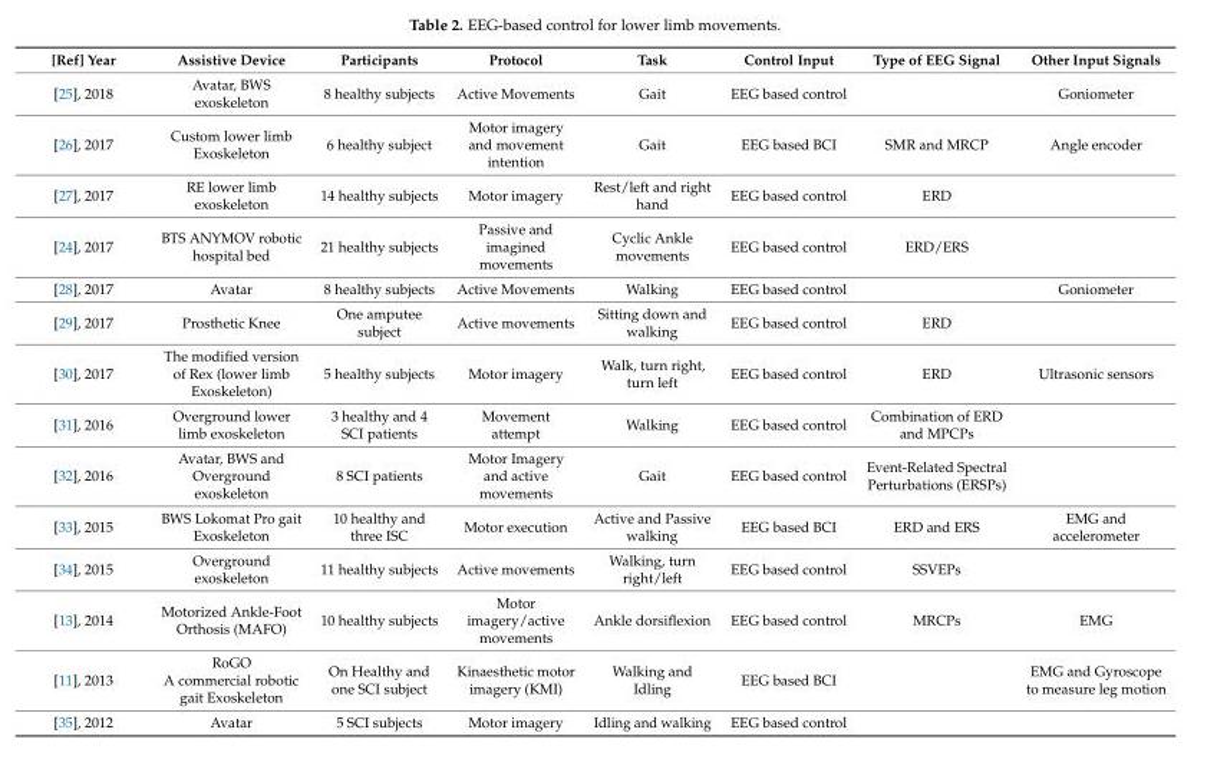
<table><thead><tr><td>[Ref] Year</td><td>Assistive Device</td><td>Participants</td><td>Protocol</td><td>Task</td><td>Control Input</td><td>Type of EEG Signal</td><td>Other Input Signals</td></tr></thead><tbody><tr><td>[25], 2018</td><td>Avatar, BWS exoskeleton</td><td>8 healthy subjects</td><td>Active Movements</td><td>Gait</td><td>EEG based control</td><td></td><td>Goniometer</td></tr><tr><td>[26], 2017</td><td>Custom lower limb Exoskeleton</td><td>6 healthy subject</td><td>Motor imagery and movement intention</td><td>Gait</td><td>EEG based BCI</td><td>SMR and MRCP</td><td>Angle encoder</td></tr><tr><td>[27], 2017</td><td>RE lower limb exoskeleton</td><td>14 healthy subjects</td><td>Motor imagery</td><td>Rest/left and right hand</td><td>EEG based control</td><td>ERD</td><td></td></tr><tr><td>[24], 2017</td><td>BTS ANYMOV robotic hospital bed</td><td>21 healthy subjects</td><td>Passive and imagined movements</td><td>Cyclic Ankle movements</td><td>EEG based control</td><td>ERD/ERS</td><td></td></tr><tr><td>[28], 2017</td><td>Avatar</td><td>8 healthy subjects</td><td>Active Movements</td><td>Walking</td><td>EEG based control</td><td></td><td>Goniometer</td></tr><tr><td>[29], 2017</td><td>Prosthetic Knee</td><td>One amputee subject</td><td>Active movements</td><td>Sitting down and walking</td><td>EEG based control</td><td>ERD</td><td></td></tr><tr><td>[30], 2017</td><td>The modified version of Rex (lower limb Exoskeleton)</td><td>5 healthy subjects</td><td>Motor imagery</td><td>Walk, turn right, turn left</td><td>EEG based control</td><td>ERD</td><td>Ultrasonic sensors</td></tr><tr><td>[31], 2016</td><td>Overground lower limb exoskeleton</td><td>3 healthy and 4 SCI patients</td><td>Movement attempt</td><td>Walking</td><td>EEG based control</td><td>Combination of ERD and MPCPs</td><td></td></tr><tr><td>[32], 2016</td><td>Avatar, BWS and Overground exoskeleton</td><td>8 SCI patients</td><td>Motor Imagery and active movements</td><td>Gait</td><td>EEG based control</td><td>Event-Related Spectral Perturbations (ERSPs)</td><td></td></tr><tr><td>[33], 2015</td><td>BWS Lokomat Pro gait Exoskeleton</td><td>10 healthy and three ISC</td><td>Motor execution</td><td>Active and Passive walking</td><td>EEG based BCI</td><td>ERD and ERS</td><td>EMG and accelerometer</td></tr><tr><td>[34], 2015</td><td>Overground exoskeleton</td><td>11 healthy subjects</td><td>Active movements</td><td>Walking, turn right/left</td><td>EEG based control</td><td>SSVEPs</td><td></td></tr><tr><td>[13], 2014</td><td>Motorized Ankle-Foot Orthosis (MAFO)</td><td>10 healthy subjects</td><td>Motor imagery/active movements</td><td>Ankle dorsiflexion</td><td>EEG based control</td><td>MRCPs</td><td>EMG</td></tr><tr><td>[11], 2013</td><td>RoGO A commercial robotic gait Exoskeleton</td><td>On Healthy and one SCI subject</td><td>Kinaesthetic motor imagery (KMI)</td><td>Walking and Idling</td><td>EEG based BCI</td><td></td><td>EMG and Gyroscope to measure leg motion</td></tr><tr><td>[35], 2012</td><td>Avatar</td><td>5 SCI subjects</td><td>Motor imagery</td><td>Idling and walking</td><td>EEG based control</td><td></td><td></td></tr></tbody></table>